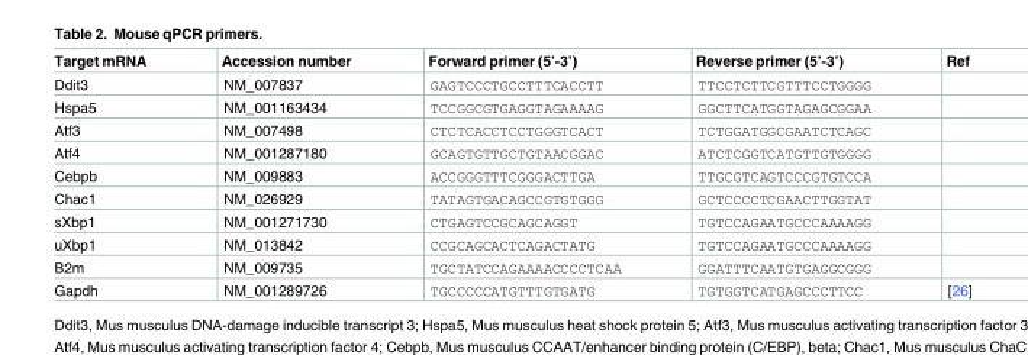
<table><thead><tr><td>Target mRNA</td><td>Accession number</td><td>Forward primer (5’-3’)</td><td>Reverse primer (5’-3’)</td><td>Ref</td></tr></thead><tbody><tr><td>Ddit3</td><td>NM_007837</td><td>GAGTCCCTGCCTTTCACCTT</td><td>TTCCTCTTCGTTTCCTGGGG</td><td></td></tr><tr><td>Hspa5</td><td>NM_001163434</td><td>TCCGGCGTGAGGTAGAAAAG</td><td>GGCTTCATGGTAGAGCGGAA</td><td></td></tr><tr><td>Atf3</td><td>NM_007498</td><td>CTCTCACCTCCTGGGTCACT</td><td>TCTGGATGGCGAATCTCAGC</td><td></td></tr><tr><td>Atf4</td><td>NM_001287180</td><td>GCAGTGTTGCTGTAACGGAC</td><td>ATCTCGGTCATGTTGTGGGG</td><td></td></tr><tr><td>Cebpb</td><td>NM_009883</td><td>ACCGGGTTTCGGGACTTGA</td><td>TTGCGTCAGTCCCGTGTCCA</td><td></td></tr><tr><td>Chac1</td><td>NM_026929</td><td>TATAGTGACAGCCGTGTGGG</td><td>GCTCCCCTCGAACTTGGTAT</td><td></td></tr><tr><td>sXbp1</td><td>NM_001271730</td><td>CTGAGTCCGCAGCAGGT</td><td>TGTCCAGAATGCCCAAAAGG</td><td></td></tr><tr><td>uXbp1</td><td>NM_013842</td><td>CCGCAGCACTCAGACTATG</td><td>TGTCCAGAATGCCCAAAAGG</td><td></td></tr><tr><td>B2m</td><td>NM_009735</td><td>TGCTATCCAGAAAACCCCTCAA</td><td>GGATTTCAATGTGAGGCGGG</td><td></td></tr><tr><td>Gapdh</td><td>NM_001289726</td><td>TGCCCCCATGTTTGTGATG</td><td>TGTGGTCATGAGCCCTTCC</td><td>[26]</td></tr></tbody></table>